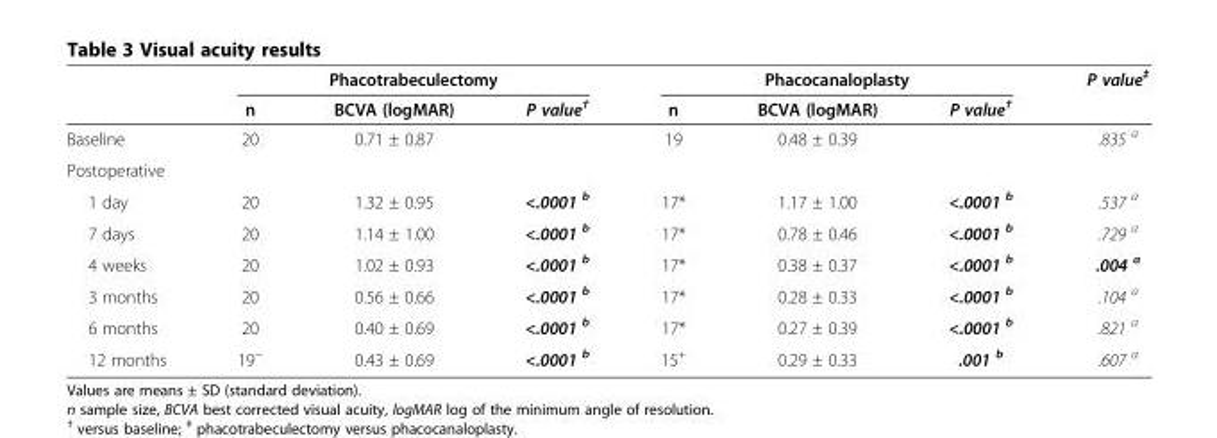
<table><thead><tr><td rowspan="2"></td><td colspan="3">Phacotrabeculectomy</td><td colspan="3">Phacocanaloplasty</td><td rowspan="2">P value<sup>‡</sup></td></tr><tr><td>n</td><td>BCVA (logMAR)</td><td>P value<sup>†</sup></td><td>n</td><td>BCVA (logMAR)</td><td>P value<sup>†</sup></td></tr></thead><tbody><tr><td>Baseline</td><td>20</td><td>0.71 ± 0.87</td><td></td><td>19</td><td>0.48 ± 0.39</td><td></td><td>.835 <sup>a</sup></td></tr><tr><td colspan="8">Postoperative</td></tr><tr><td>1 day</td><td>20</td><td>1.32 ± 0.95</td><td>&lt;.0001 <sup>b</sup></td><td>17*</td><td>1.17 ± 1.00</td><td>&lt;.0001 <sup>b</sup></td><td>.537 <sup>a</sup></td></tr><tr><td>7 days</td><td>20</td><td>1.14 ± 1.00</td><td>&lt;.0001 <sup>b</sup></td><td>17*</td><td>0.78 ± 0.46</td><td>&lt;.0001 <sup>b</sup></td><td>.729 <sup>a</sup></td></tr><tr><td>4 weeks</td><td>20</td><td>1.02 ± 0.93</td><td>&lt;.0001 <sup>b</sup></td><td>17*</td><td>0.38 ± 0.37</td><td>&lt;.0001 <sup>b</sup></td><td>.004 <sup>a</sup></td></tr><tr><td>3 months</td><td>20</td><td>0.56 ± 0.66</td><td>&lt;.0001 <sup>b</sup></td><td>17*</td><td>0.28 ± 0.33</td><td>&lt;.0001 <sup>b</sup></td><td>.104 <sup>a</sup></td></tr><tr><td>6 months</td><td>20</td><td>0.40 ± 0.69</td><td>&lt;.0001 <sup>b</sup></td><td>17*</td><td>0.27 ± 0.39</td><td>&lt;.0001 <sup>b</sup></td><td>.821 <sup>a</sup></td></tr><tr><td>12 months</td><td>19<sup>~</sup></td><td>0.43 ± 0.69</td><td>&lt;.0001 <sup>b</sup></td><td>15<sup>+</sup></td><td>0.29 ± 0.33</td><td>.001 <sup>b</sup></td><td>.607 <sup>a</sup></td></tr></tbody></table>